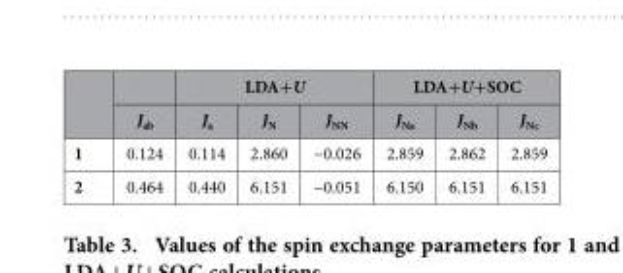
<table><thead><tr><td rowspan="2"></td><td rowspan="2">J<sub>ab</sub></td><td colspan="3">LDA+U</td><td colspan="3">LDA+U+SOC</td></tr><tr><td>J<sub>a</sub></td><td>J<sub>N</sub></td><td>J<sub>NN</sub></td><td>J<sub>Na</sub></td><td>J<sub>Nb</sub></td><td>J<sub>Nc</sub></td></tr></thead><tbody><tr><td>1</td><td>0.124</td><td>0.114</td><td>2.860</td><td>−0.026</td><td>2.859</td><td>2.862</td><td>2.859</td></tr><tr><td>2</td><td>0.464</td><td>0.440</td><td>6.151</td><td>−0.051</td><td>6.150</td><td>6.151</td><td>6.151</td></tr></tbody></table>